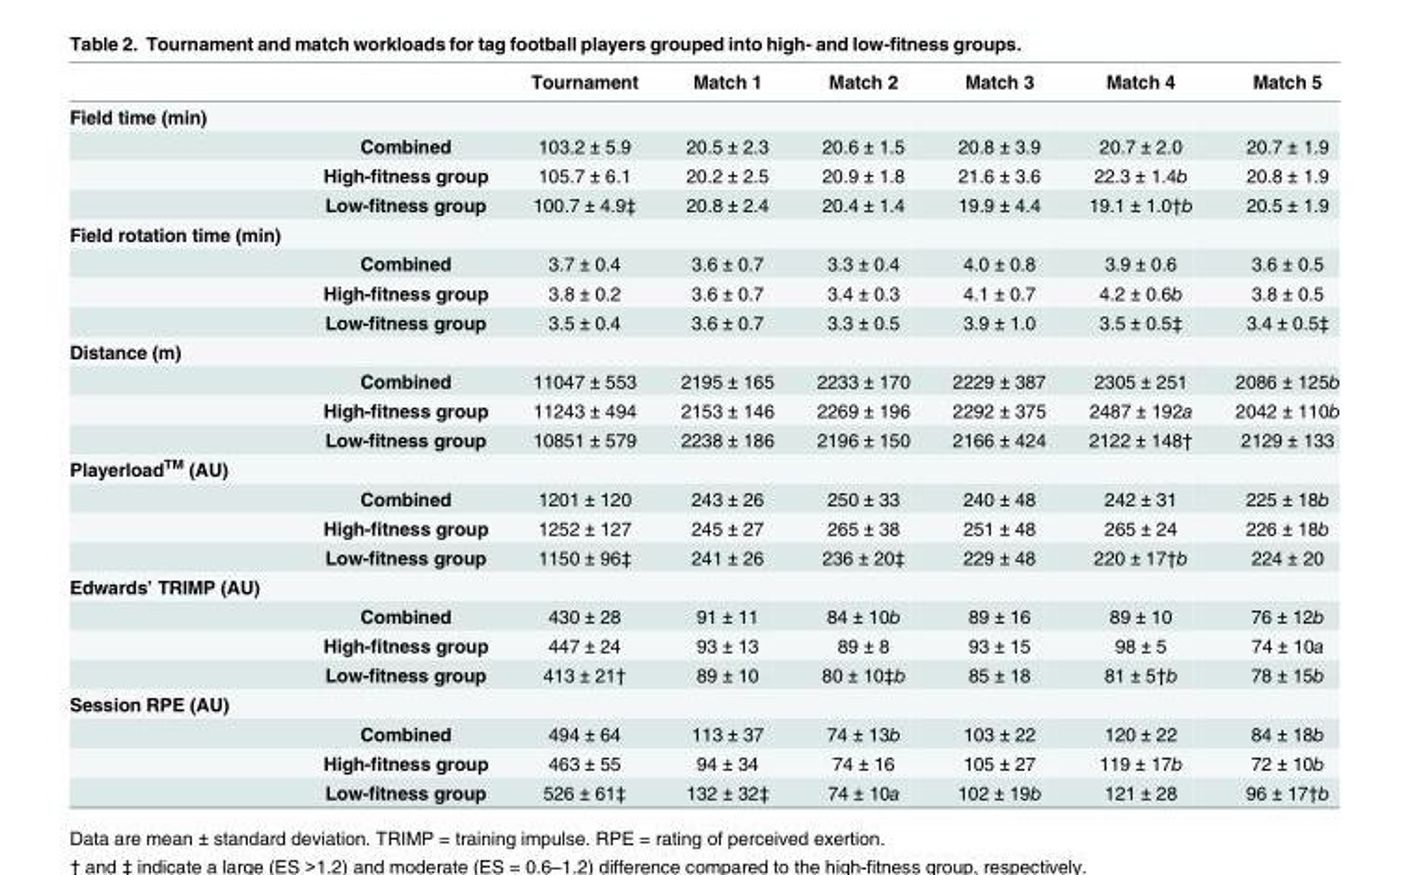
<table><thead><tr><td></td><td></td><td>Tournament</td><td>Match 1</td><td>Match 2</td><td>Match 3</td><td>Match 4</td><td>Match 5</td></tr></thead><tbody><tr><td colspan="8">Field time (min)</td></tr><tr><td></td><td>Combined</td><td>103.2 ± 5.9</td><td>20.5 ± 2.3</td><td>20.6 ± 1.5</td><td>20.8 ± 3.9</td><td>20.7 ± 2.0</td><td>20.7 ± 1.9</td></tr><tr><td></td><td>High-fitness group</td><td>105.7 ± 6.1</td><td>20.2 ± 2.5</td><td>20.9 ± 1.8</td><td>21.6 ± 3.6</td><td>22.3 ± 1.4b</td><td>20.8 ± 1.9</td></tr><tr><td></td><td>Low-fitness group</td><td>100.7 ± 4.9‡</td><td>20.8 ± 2.4</td><td>20.4 ± 1.4</td><td>19.9 ± 4.4</td><td>19.1 ± 1.0†b</td><td>20.5 ± 1.9</td></tr><tr><td colspan="8">Field rotation time (min)</td></tr><tr><td></td><td>Combined</td><td>3.7 ± 0.4</td><td>3.6 ± 0.7</td><td>3.3 ± 0.4</td><td>4.0 ± 0.8</td><td>3.9 ± 0.6</td><td>3.6 ± 0.5</td></tr><tr><td></td><td>High-fitness group</td><td>3.8 ± 0.2</td><td>3.6 ± 0.7</td><td>3.4 ± 0.3</td><td>4.1 ± 0.7</td><td>4.2 ± 0.6b</td><td>3.8 ± 0.5</td></tr><tr><td></td><td>Low-fitness group</td><td>3.5 ± 0.4</td><td>3.6 ± 0.7</td><td>3.3 ± 0.5</td><td>3.9 ± 1.0</td><td>3.5 ± 0.5‡</td><td>3.4 ± 0.5‡</td></tr><tr><td colspan="8">Distance (m)</td></tr><tr><td></td><td>Combined</td><td>11047 ± 553</td><td>2195 ± 165</td><td>2233 ± 170</td><td>2229 ± 387</td><td>2305 ± 251</td><td>2086 ± 125b</td></tr><tr><td></td><td>High-fitness group</td><td>11243 ± 494</td><td>2153 ± 146</td><td>2269 ± 196</td><td>2292 ± 375</td><td>2487 ± 192a</td><td>2042 ± 110b</td></tr><tr><td></td><td>Low-fitness group</td><td>10851 ± 579</td><td>2238 ± 186</td><td>2196 ± 150</td><td>2166 ± 424</td><td>2122 ± 148†</td><td>2129 ± 133</td></tr><tr><td colspan="8">Playerload<sup>TM</sup> (AU)</td></tr><tr><td></td><td>Combined</td><td>1201 ± 120</td><td>243 ± 26</td><td>250 ± 33</td><td>240 ± 48</td><td>242 ± 31</td><td>225 ± 18b</td></tr><tr><td></td><td>High-fitness group</td><td>1252 ± 127</td><td>245 ± 27</td><td>265 ± 38</td><td>251 ± 48</td><td>265 ± 24</td><td>226 ± 18b</td></tr><tr><td></td><td>Low-fitness group</td><td>1150 ± 96‡</td><td>241 ± 26</td><td>236 ± 20‡</td><td>229 ± 48</td><td>220 ± 17†b</td><td>224 ± 20</td></tr><tr><td colspan="8">Edwards’ TRIMP (AU)</td></tr><tr><td></td><td>Combined</td><td>430 ± 28</td><td>91 ± 11</td><td>84 ± 10b</td><td>89 ± 16</td><td>89 ± 10</td><td>76 ± 12b</td></tr><tr><td></td><td>High-fitness group</td><td>447 ± 24</td><td>93 ± 13</td><td>89 ± 8</td><td>93 ± 15</td><td>98 ± 5</td><td>74 ± 10a</td></tr><tr><td></td><td>Low-fitness group</td><td>413 ± 21†</td><td>89 ± 10</td><td>80 ± 10‡b</td><td>85 ± 18</td><td>81 ± 5†b</td><td>78 ± 15b</td></tr><tr><td colspan="8">Session RPE (AU)</td></tr><tr><td></td><td>Combined</td><td>494 ± 64</td><td>113 ± 37</td><td>74 ± 13b</td><td>103 ± 22</td><td>120 ± 22</td><td>84 ± 18b</td></tr><tr><td></td><td>High-fitness group</td><td>463 ± 55</td><td>94 ± 34</td><td>74 ± 16</td><td>105 ± 27</td><td>119 ± 17b</td><td>72 ± 10b</td></tr><tr><td></td><td>Low-fitness group</td><td>526 ± 61‡</td><td>132 ± 32‡</td><td>74 ± 10a</td><td>102 ± 19b</td><td>121 ± 28</td><td>96 ± 17†b</td></tr></tbody></table>